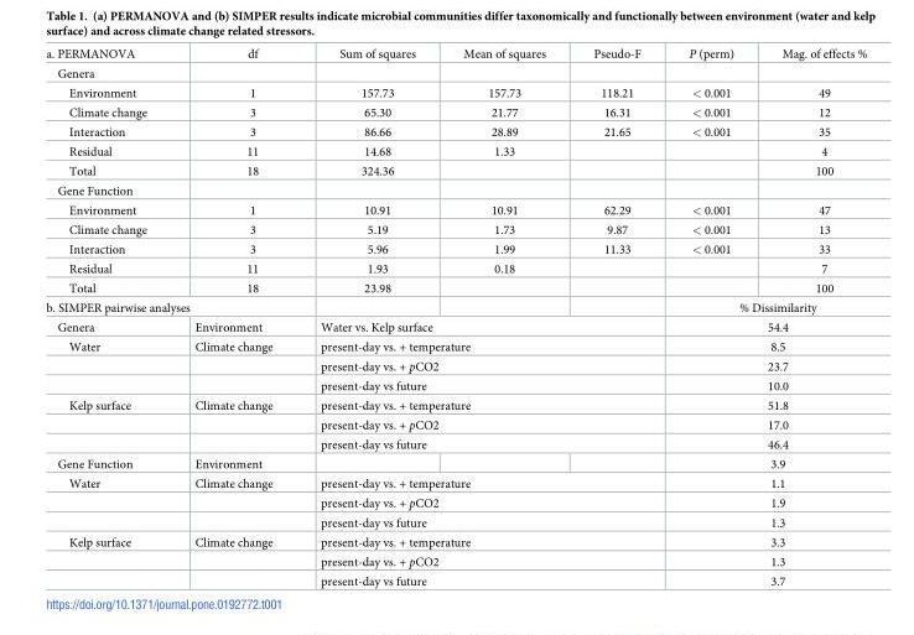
<table><tbody><tr><td>a. PERMANOVA</td><td>df</td><td>Sum of squares</td><td>Mean of squares</td><td>Pseudo-F</td><td>P (perm)</td><td>Mag. of effects %</td></tr><tr><td colspan="7">Genera</td></tr><tr><td>Environment</td><td>1</td><td>157.73</td><td>157.73</td><td>118.21</td><td>&lt; 0.001</td><td>49</td></tr><tr><td>Climate change</td><td>3</td><td>65.30</td><td>21.77</td><td>16.31</td><td>&lt; 0.001</td><td>12</td></tr><tr><td>Interaction</td><td>3</td><td>86.66</td><td>28.89</td><td>21.65</td><td>&lt; 0.001</td><td>35</td></tr><tr><td>Residual</td><td>11</td><td>14.68</td><td>1.33</td><td></td><td></td><td>4</td></tr><tr><td>Total</td><td>18</td><td>324.36</td><td></td><td></td><td></td><td>100</td></tr><tr><td colspan="7">Gene Function</td></tr><tr><td>Environment</td><td>1</td><td>10.91</td><td>10.91</td><td>62.29</td><td>&lt; 0.001</td><td>47</td></tr><tr><td>Climate change</td><td>3</td><td>5.19</td><td>1.73</td><td>9.87</td><td>&lt; 0.001</td><td>13</td></tr><tr><td>Interaction</td><td>3</td><td>5.96</td><td>1.99</td><td>11.33</td><td>&lt; 0.001</td><td>33</td></tr><tr><td>Residual</td><td>11</td><td>1.93</td><td>0.18</td><td></td><td></td><td>7</td></tr><tr><td>Total</td><td>18</td><td>23.98</td><td></td><td></td><td></td><td>100</td></tr><tr><td colspan="2">b. SIMPER pairwise analyses</td><td></td><td></td><td></td><td colspan="2">% Dissimilarity</td></tr><tr><td>Genera</td><td>Environment</td><td colspan="3">Water vs. Kelp surface</td><td colspan="2">54.4</td></tr><tr><td rowspan="3">Water</td><td>Climate change</td><td colspan="3">present-day vs. + temperature</td><td colspan="2">8.5</td></tr><tr><td></td><td colspan="3">present-day vs. + pCO2</td><td colspan="2">23.7</td></tr><tr><td></td><td colspan="3">present-day vs future</td><td colspan="2">10.0</td></tr><tr><td rowspan="3">Kelp surface</td><td>Climate change</td><td colspan="3">present-day vs. + temperature</td><td colspan="2">51.8</td></tr><tr><td></td><td colspan="3">present-day vs. + pCO2</td><td colspan="2">17.0</td></tr><tr><td></td><td colspan="3">present-day vs future</td><td colspan="2">46.4</td></tr><tr><td>Gene Function</td><td>Environment</td><td></td><td></td><td></td><td colspan="2">3.9</td></tr><tr><td rowspan="3">Water</td><td>Climate change</td><td colspan="3">present-day vs. + temperature</td><td colspan="2">1.1</td></tr><tr><td></td><td colspan="3">present-day vs. + pCO2</td><td colspan="2">1.9</td></tr><tr><td></td><td colspan="3">present-day vs future</td><td colspan="2">1.3</td></tr><tr><td rowspan="3">Kelp surface</td><td>Climate change</td><td colspan="3">present-day vs. + temperature</td><td colspan="2">3.3</td></tr><tr><td></td><td colspan="3">present-day vs. + pCO2</td><td colspan="2">1.3</td></tr><tr><td></td><td colspan="3">present-day vs future</td><td colspan="2">3.7</td></tr></tbody></table>